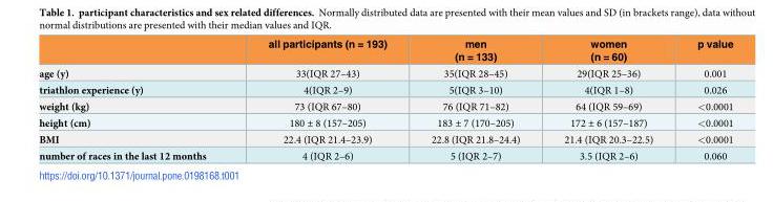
<table><thead><tr><td></td><td>all participants (n = 193)</td><td>men (n = 133)</td><td>women (n = 60)</td><td>p value</td></tr></thead><tbody><tr><td>age (y)</td><td>33(IQR 27–43)</td><td>35(IQR 28–45)</td><td>29(IQR 25–36)</td><td>0.001</td></tr><tr><td>triathlon experience (y)</td><td>4(IQR 2–9)</td><td>5(IQR 3–10)</td><td>4(IQR 1–8)</td><td>0.026</td></tr><tr><td>weight (kg)</td><td>73 (IQR 67–80)</td><td>76 (IQR 71–82)</td><td>64 (IQR 59–69)</td><td>&lt;0.0001</td></tr><tr><td>height (cm)</td><td>180 ± 8 (157–205)</td><td>183 ± 7 (170–205)</td><td>172 ± 6 (157–187)</td><td>&lt;0.0001</td></tr><tr><td>BMI</td><td>22.4 (IQR 21.4–23.9)</td><td>22.8 (IQR 21.8–24.4)</td><td>21.4 (IQR 20.3–22.5)</td><td>&lt;0.0001</td></tr><tr><td>number of races in the last 12 months</td><td>4 (IQR 2–6)</td><td>5 (IQR 2–7)</td><td>3.5 (IQR 2–6)</td><td>0.060</td></tr></tbody></table>